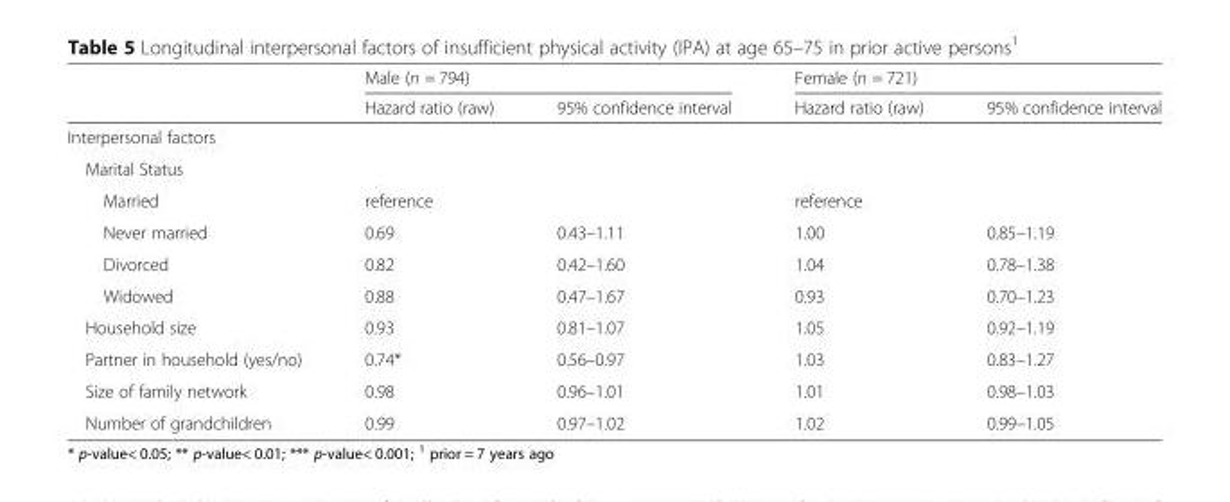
<table><thead><tr><td rowspan="2"></td><td colspan="2">Male (n = 794)</td><td colspan="2">Female (n = 721)</td></tr><tr><td>Hazard ratio (raw)</td><td>95% confidence interval</td><td>Hazard ratio (raw)</td><td>95% confidence interval</td></tr></thead><tbody><tr><td colspan="5">Interpersonal factors</td></tr><tr><td colspan="5">Marital Status</td></tr><tr><td>Married</td><td>reference</td><td></td><td>reference</td><td></td></tr><tr><td>Never married</td><td>0.69</td><td>0.43–1.11</td><td>1.00</td><td>0.85–1.19</td></tr><tr><td>Divorced</td><td>0.82</td><td>0.42–1.60</td><td>1.04</td><td>0.78–1.38</td></tr><tr><td>Widowed</td><td>0.88</td><td>0.47–1.67</td><td>0.93</td><td>0.70–1.23</td></tr><tr><td>Household size</td><td>0.93</td><td>0.81–1.07</td><td>1.05</td><td>0.92–1.19</td></tr><tr><td>Partner in household (yes/no)</td><td>0.74*</td><td>0.56–0.97</td><td>1.03</td><td>0.83–1.27</td></tr><tr><td>Size of family network</td><td>0.98</td><td>0.96–1.01</td><td>1.01</td><td>0.98–1.03</td></tr><tr><td>Number of grandchildren</td><td>0.99</td><td>0.97–1.02</td><td>1.02</td><td>0.99–1.05</td></tr></tbody></table>